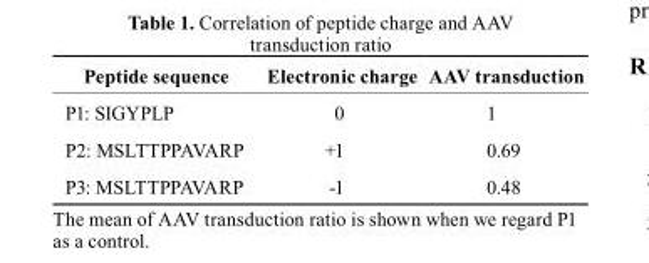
<table><thead><tr><td>Peptide sequence</td><td>Electronic charge</td><td>AAV transduction</td></tr></thead><tbody><tr><td>P1: SIGYPLP</td><td>0</td><td>1</td></tr><tr><td>P2: MSLTTPPAVARP</td><td>+1</td><td>0.69</td></tr><tr><td>P3: MSLTTPPAVARP</td><td>-1</td><td>0.48</td></tr></tbody></table>